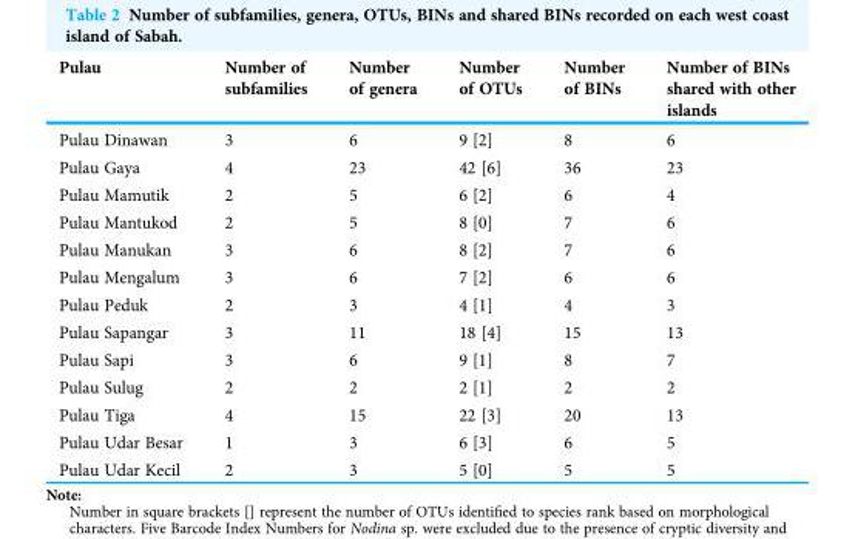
<table><thead><tr><td>Pulau</td><td>Number of subfamilies</td><td>Number of genera</td><td>Number of OTUs</td><td>Number of BINs</td><td>Number of BINs shared with other islands</td></tr></thead><tbody><tr><td>Pulau Dinawan</td><td>3</td><td>6</td><td>9 [2]</td><td>8</td><td>6</td></tr><tr><td>Pulau Gaya</td><td>4</td><td>23</td><td>42 [6]</td><td>36</td><td>23</td></tr><tr><td>Pulau Mamutik</td><td>2</td><td>5</td><td>6 [2]</td><td>6</td><td>4</td></tr><tr><td>Pulau Mantukod</td><td>2</td><td>5</td><td>8 [0]</td><td>7</td><td>6</td></tr><tr><td>Pulau Manukan</td><td>3</td><td>6</td><td>8 [2]</td><td>7</td><td>6</td></tr><tr><td>Pulau Mengalum</td><td>3</td><td>6</td><td>7 [2]</td><td>6</td><td>6</td></tr><tr><td>Pulau Peduk</td><td>2</td><td>3</td><td>4 [1]</td><td>4</td><td>3</td></tr><tr><td>Pulau Sapangar</td><td>3</td><td>11</td><td>18 [4]</td><td>15</td><td>13</td></tr><tr><td>Pulau Sapi</td><td>3</td><td>6</td><td>9 [1]</td><td>8</td><td>7</td></tr><tr><td>Pulau Sulug</td><td>2</td><td>2</td><td>2 [1]</td><td>2</td><td>2</td></tr><tr><td>Pulau Tiga</td><td>4</td><td>15</td><td>22 [3]</td><td>20</td><td>13</td></tr><tr><td>Pulau Udar Besar</td><td>1</td><td>3</td><td>6 [3]</td><td>6</td><td>5</td></tr><tr><td>Pulau Udar Kecil</td><td>2</td><td>3</td><td>5 [0]</td><td>5</td><td>5</td></tr></tbody></table>